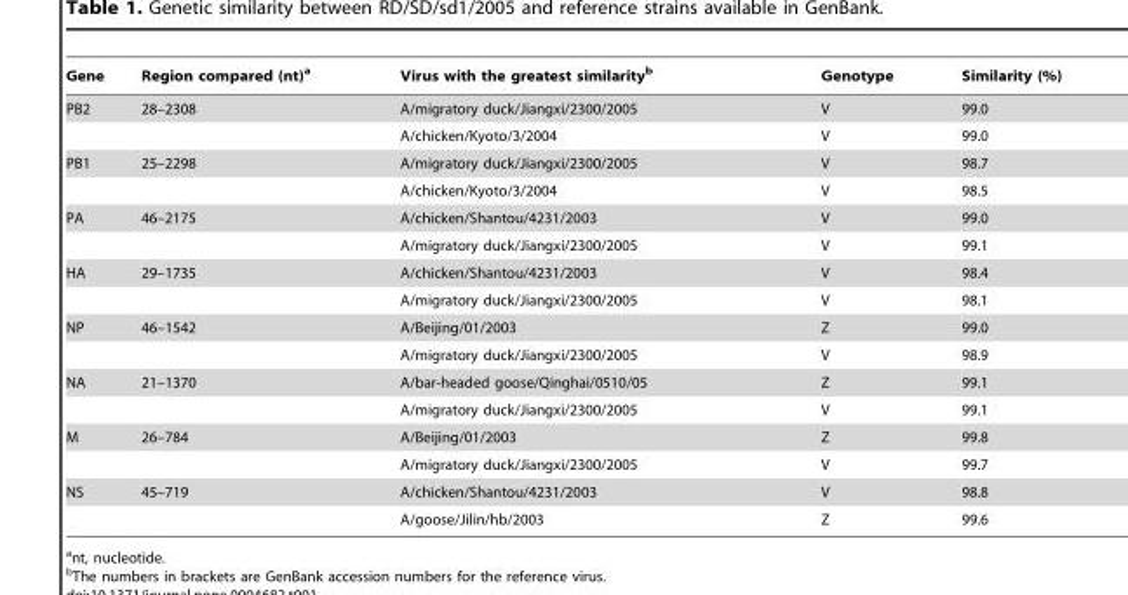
<table><thead><tr><td>Gene</td><td>Region compared (nt)<sup>a</sup></td><td>Virus with the greatest similarity<sup>b</sup></td><td>Genotype</td><td>Similarity (%)</td></tr></thead><tbody><tr><td rowspan="2">PB2</td><td>28–2308</td><td>A/migratory duck/Jiangxi/2300/2005</td><td>V</td><td>99.0</td></tr><tr><td></td><td>A/chicken/Kyoto/3/2004</td><td>V</td><td>99.0</td></tr><tr><td rowspan="2">PB1</td><td>25–2298</td><td>A/migratory duck/Jiangxi/2300/2005</td><td>V</td><td>98.7</td></tr><tr><td></td><td>A/chicken/Kyoto/3/2004</td><td>V</td><td>98.5</td></tr><tr><td rowspan="2">PA</td><td>46–2175</td><td>A/chicken/Shantou/4231/2003</td><td>V</td><td>99.0</td></tr><tr><td></td><td>A/migratory duck/Jiangxi/2300/2005</td><td>V</td><td>99.1</td></tr><tr><td rowspan="2">HA</td><td>29–1735</td><td>A/chicken/Shantou/4231/2003</td><td>V</td><td>98.4</td></tr><tr><td></td><td>A/migratory duck/Jiangxi/2300/2005</td><td>V</td><td>98.1</td></tr><tr><td rowspan="2">NP</td><td>46–1542</td><td>A/Beijing/01/2003</td><td>Z</td><td>99.0</td></tr><tr><td></td><td>A/migratory duck/Jiangxi/2300/2005</td><td>V</td><td>98.9</td></tr><tr><td rowspan="2">NA</td><td>21–1370</td><td>A/bar-headed goose/Qinghai/0510/05</td><td>Z</td><td>99.1</td></tr><tr><td></td><td>A/migratory duck/Jiangxi/2300/2005</td><td>V</td><td>99.1</td></tr><tr><td rowspan="2">M</td><td>26–784</td><td>A/Beijing/01/2003</td><td>Z</td><td>99.8</td></tr><tr><td></td><td>A/migratory duck/Jiangxi/2300/2005</td><td>V</td><td>99.7</td></tr><tr><td rowspan="2">NS</td><td>45–719</td><td>A/chicken/Shantou/4231/2003</td><td>V</td><td>98.8</td></tr><tr><td></td><td>A/goose/Jilin/hb/2003</td><td>Z</td><td>99.6</td></tr></tbody></table>